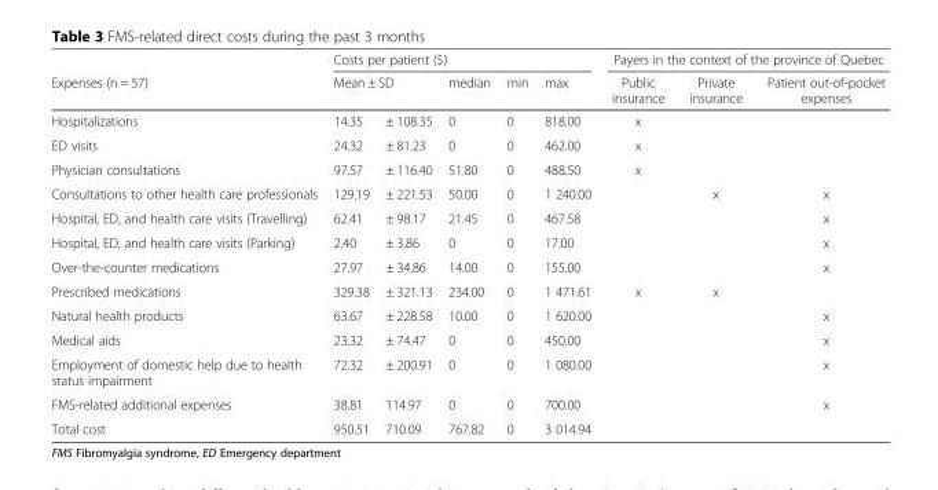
<table><thead><tr><td rowspan="3">Expenses (n = 57) Hospitalizations</td><td colspan="5">Costs per patient ($)</td><td colspan="3">Payers in the context of the province of Quebec</td></tr><tr><td colspan="2">Mean ± SD</td><td rowspan="2">median 0</td><td rowspan="2">min 0</td><td rowspan="2">max 818.00</td><td rowspan="2">Public insurance x</td><td rowspan="2">Private insurance</td><td rowspan="2">Patient out-of-pocket expenses</td></tr><tr><td>14.35</td><td>± 108.35</td></tr></thead><tbody><tr><td>ED visits</td><td>24.32</td><td>± 81.23</td><td>0</td><td>0</td><td>462.00</td><td>x</td><td></td><td></td></tr><tr><td>Physician consultations</td><td>97.57</td><td>± 116.40</td><td>51.80</td><td>0</td><td>488.50</td><td>x</td><td></td><td></td></tr><tr><td>Consultations to other health care professionals</td><td>129.19</td><td>± 221.53</td><td>50.00</td><td>0</td><td>1 240.00</td><td></td><td>x</td><td>x</td></tr><tr><td>Hospital, ED, and health care visits (Travelling)</td><td>62.41</td><td>± 98.17</td><td>21.45</td><td>0</td><td>467.58</td><td></td><td></td><td>x</td></tr><tr><td>Hospital, ED, and health care visits (Parking)</td><td>2.40</td><td>± 3.86</td><td>0</td><td>0</td><td>17.00</td><td></td><td></td><td>x</td></tr><tr><td>Over-the-counter medications</td><td>27.97</td><td>± 34.86</td><td>14.00</td><td>0</td><td>155.00</td><td></td><td></td><td>x</td></tr><tr><td>Prescribed medications</td><td>329.38</td><td>± 321.13</td><td>234.00</td><td>0</td><td>1 471.61</td><td>x</td><td>x</td><td></td></tr><tr><td>Natural health products</td><td>63.67</td><td>± 228.58</td><td>10.00</td><td>0</td><td>1 620.00</td><td></td><td></td><td>x</td></tr><tr><td>Medical aids</td><td>23.32</td><td>± 74.47</td><td>0</td><td>0</td><td>450.00</td><td></td><td></td><td>x</td></tr><tr><td>Employment of domestic help due to health status impairment</td><td>72.32</td><td>± 200.91</td><td>0</td><td>0</td><td>1 080.00</td><td></td><td></td><td>x</td></tr><tr><td>FMS-related additional expenses</td><td>38.81</td><td>114.97</td><td>0</td><td>0</td><td>700.00</td><td></td><td></td><td>x</td></tr><tr><td>Total cost</td><td>950.51</td><td>710.09</td><td>767.82</td><td>0</td><td>3 014.94</td><td></td><td></td><td></td></tr></tbody></table>